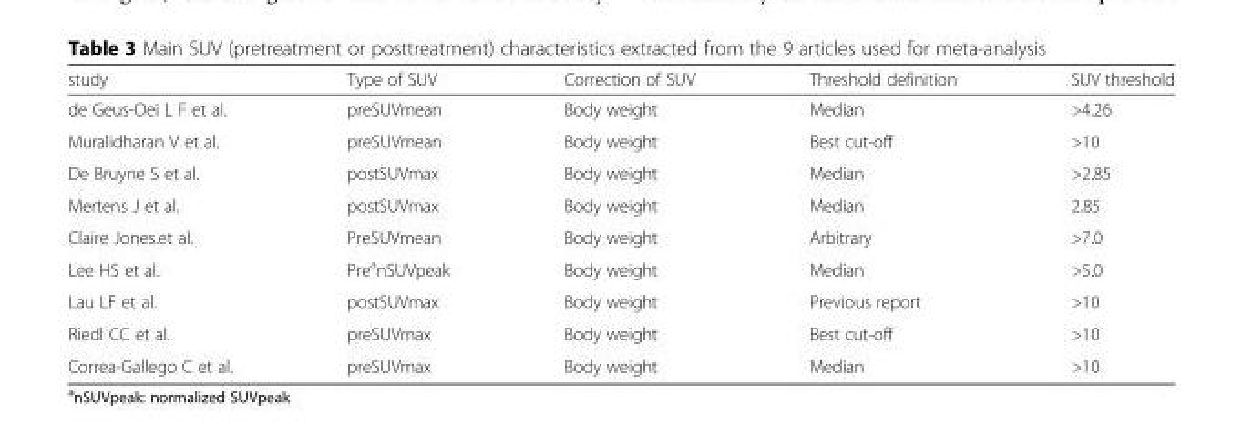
<table><thead><tr><td>study</td><td>Type of SUV</td><td>Correction of SUV</td><td>Threshold definition</td><td>SUV threshold</td></tr></thead><tbody><tr><td>de Geus-Oei L F et al.</td><td>preSUVmean</td><td>Body weight</td><td>Median</td><td>&gt;4.26</td></tr><tr><td>Muralidharan V et al.</td><td>preSUVmean</td><td>Body weight</td><td>Best cut-off</td><td>&gt;10</td></tr><tr><td>De Bruyne S et al.</td><td>postSUVmax</td><td>Body weight</td><td>Median</td><td>&gt;2.85</td></tr><tr><td>Mertens J et al.</td><td>postSUVmax</td><td>Body weight</td><td>Median</td><td>2.85</td></tr><tr><td>Claire Jones.et al.</td><td>PreSUVmean</td><td>Body weight</td><td>Arbitrary</td><td>&gt;7.0</td></tr><tr><td>Lee HS et al.</td><td>Pre<sup>a</sup>nSUVpeak</td><td>Body weight</td><td>Median</td><td>&gt;5.0</td></tr><tr><td>Lau LF et al.</td><td>postSUVmax</td><td>Body weight</td><td>Previous report</td><td>&gt;10</td></tr><tr><td>Riedl CC et al.</td><td>preSUVmax</td><td>Body weight</td><td>Best cut-off</td><td>&gt;10</td></tr><tr><td>Correa-Gallego C et al.</td><td>preSUVmax</td><td>Body weight</td><td>Median</td><td>&gt;10</td></tr></tbody></table>